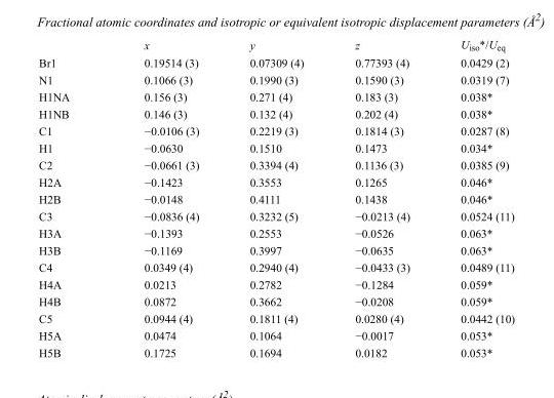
<table><thead><tr><td></td><td>x</td><td>y</td><td>z</td><td>U<sub>iso</sub>*/U<sub>eq</sub></td></tr></thead><tbody><tr><td>Br1</td><td>0.19514 (3)</td><td>0.07309 (4)</td><td>0.77393 (4)</td><td>0.0429 (2)</td></tr><tr><td>N1</td><td>0.1066 (3)</td><td>0.1990 (3)</td><td>0.1590 (3)</td><td>0.0319 (7)</td></tr><tr><td>H1NA</td><td>0.156 (3)</td><td>0.271 (4)</td><td>0.183 (3)</td><td>0.038*</td></tr><tr><td>H1NB</td><td>0.146 (3)</td><td>0.132 (4)</td><td>0.202 (4)</td><td>0.038*</td></tr><tr><td>C1</td><td>−0.0106 (3)</td><td>0.2219 (3)</td><td>0.1814 (3)</td><td>0.0287 (8)</td></tr><tr><td>H1</td><td>−0.0630</td><td>0.1510</td><td>0.1473</td><td>0.034*</td></tr><tr><td>C2</td><td>−0.0661 (3)</td><td>0.3394 (4)</td><td>0.1136 (3)</td><td>0.0385 (9)</td></tr><tr><td>H2A</td><td>−0.1423</td><td>0.3553</td><td>0.1265</td><td>0.046*</td></tr><tr><td>H2B</td><td>−0.0148</td><td>0.4111</td><td>0.1438</td><td>0.046*</td></tr><tr><td>C3</td><td>−0.0836 (4)</td><td>0.3232 (5)</td><td>−0.0213 (4)</td><td>0.0524 (11)</td></tr><tr><td>H3A</td><td>−0.1393</td><td>0.2553</td><td>−0.0526</td><td>0.063*</td></tr><tr><td>H3B</td><td>−0.1169</td><td>0.3997</td><td>−0.0635</td><td>0.063*</td></tr><tr><td>C4</td><td>0.0349 (4)</td><td>0.2940 (4)</td><td>−0.0433 (3)</td><td>0.0489 (11)</td></tr><tr><td>H4A</td><td>0.0213</td><td>0.2782</td><td>−0.1284</td><td>0.059*</td></tr><tr><td>H4B</td><td>0.0872</td><td>0.3662</td><td>−0.0208</td><td>0.059*</td></tr><tr><td>C5</td><td>0.0944 (4)</td><td>0.1811 (4)</td><td>0.0280 (4)</td><td>0.0442 (10)</td></tr><tr><td>H5A</td><td>0.0474</td><td>0.1064</td><td>−0.0017</td><td>0.053*</td></tr><tr><td>H5B</td><td>0.1725</td><td>0.1694</td><td>0.0182</td><td>0.053*</td></tr></tbody></table>